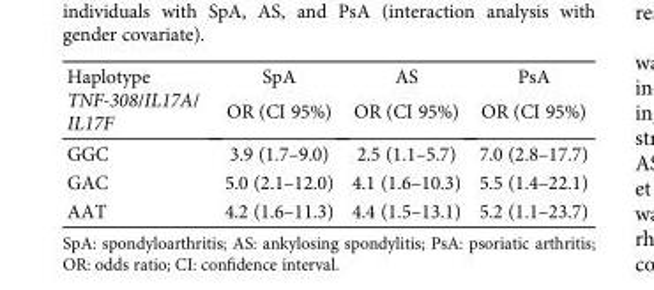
<table><thead><tr><td rowspan="2">Haplotype TNF-308/IL17A/ IL17F</td><td rowspan="2">SpA OR (CI 95%)</td><td rowspan="2">AS OR (CI 95%)</td><td rowspan="2">PsA OR (CI 95%)</td></tr><tr></tr></thead><tbody><tr><td>GGC</td><td>3.9 (1.7–9.0)</td><td>2.5 (1.1–5.7)</td><td>7.0 (2.8–17.7)</td></tr><tr><td>GAC</td><td>5.0 (2.1–12.0)</td><td>4.1 (1.6–10.3)</td><td>5.5 (1.4–22.1)</td></tr><tr><td>AAT</td><td>4.2 (1.6–11.3)</td><td>4.4 (1.5–13.1)</td><td>5.2 (1.1–23.7)</td></tr></tbody></table>